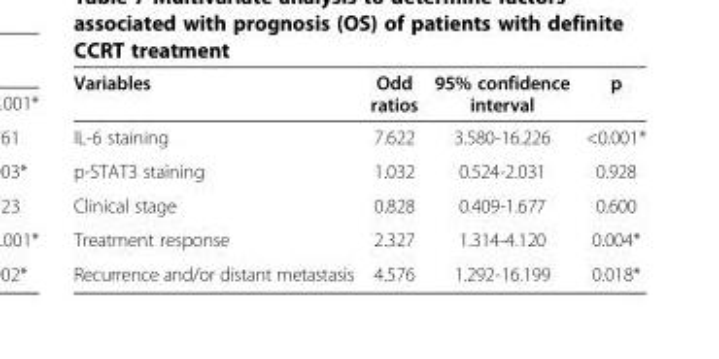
<table><thead><tr><td>Variables</td><td>Odd ratios</td><td>95% confidence interval</td><td>p</td></tr></thead><tbody><tr><td>IL-6 staining</td><td>7.622</td><td>3.580-16.226</td><td>&lt;0.001*</td></tr><tr><td>p-STAT3 staining</td><td>1.032</td><td>0.524-2.031</td><td>0.928</td></tr><tr><td>Clinical stage</td><td>0.828</td><td>0.409-1.677</td><td>0.600</td></tr><tr><td>Treatment response</td><td>2.327</td><td>1.314-4.120</td><td>0.004*</td></tr><tr><td>Recurrence and/or distant metastasis</td><td>4.576</td><td>1.292-16.199</td><td>0.018*</td></tr></tbody></table>